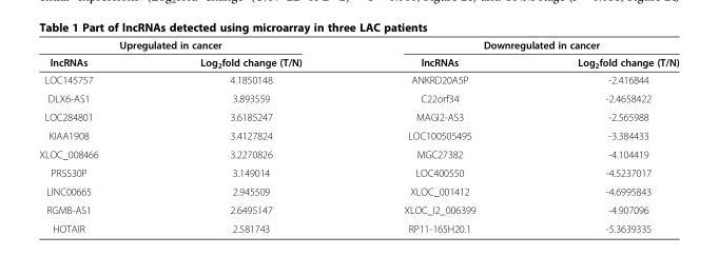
<table><thead><tr><td colspan="2">Upregulated in cancer</td><td colspan="2">Downregulated in cancer</td></tr><tr><td>lncRNAs</td><td>Log<sub>2</sub>fold change (T/N)</td><td>lncRNAs</td><td>Log<sub>2</sub>fold change (T/N)</td></tr></thead><tbody><tr><td>LOC145757</td><td>4.1850148</td><td>ANKRD20A5P</td><td>-2.416844</td></tr><tr><td>DLX6-AS1</td><td>3.893559</td><td>C22orf34</td><td>-2.4658422</td></tr><tr><td>LOC284801</td><td>3.6185247</td><td>MAGI2-AS3</td><td>-2.565988</td></tr><tr><td>KIAA1908</td><td>3.4127824</td><td>LOC100505495</td><td>-3.384433</td></tr><tr><td>XLOC_008466</td><td>3.2270826</td><td>MGC27382</td><td>-4.104419</td></tr><tr><td>PRSS30P</td><td>3.149014</td><td>LOC400550</td><td>-4.5237017</td></tr><tr><td>LINC00665</td><td>2.945509</td><td>XLOC_001412</td><td>-4.6995843</td></tr><tr><td>RGMB-AS1</td><td>2.6495147</td><td>XLOC_l2_006399</td><td>-4.907096</td></tr><tr><td>HOTAIR</td><td>2.581743</td><td>RP11-165H20.1</td><td>-5.3639335</td></tr></tbody></table>